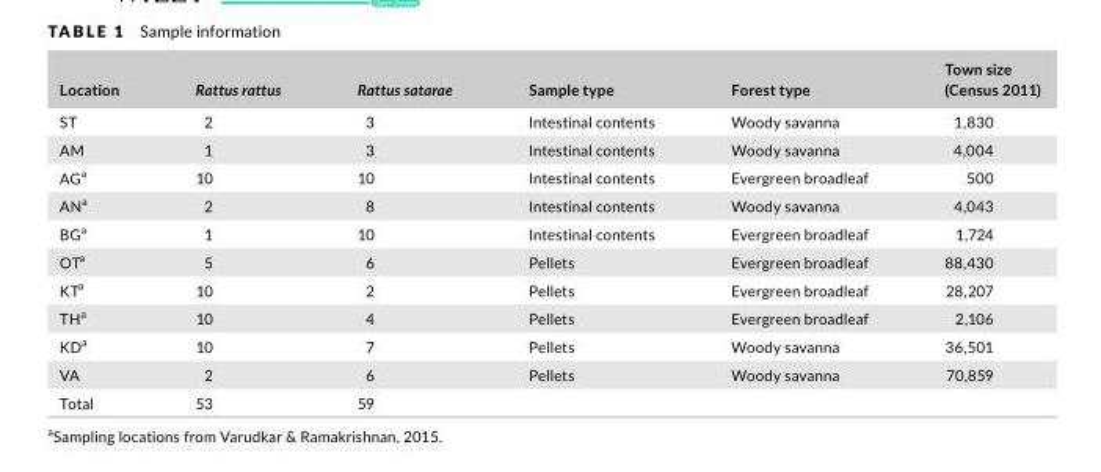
<table><thead><tr><td>Location</td><td>Rattus rattus</td><td>Rattus satarae</td><td>Sample type</td><td>Forest type</td><td>Town size (Census 2011)</td></tr></thead><tbody><tr><td>ST</td><td>2</td><td>3</td><td>Intestinal contents</td><td>Woody savanna</td><td>1,830</td></tr><tr><td>AM</td><td>1</td><td>3</td><td>Intestinal contents</td><td>Woody savanna</td><td>4,004</td></tr><tr><td>AG<sup>a</sup></td><td>10</td><td>10</td><td>Intestinal contents</td><td>Evergreen broadleaf</td><td>500</td></tr><tr><td>AN<sup>a</sup></td><td>2</td><td>8</td><td>Intestinal contents</td><td>Woody savanna</td><td>4,043</td></tr><tr><td>BG<sup>a</sup></td><td>1</td><td>10</td><td>Intestinal contents</td><td>Evergreen broadleaf</td><td>1,724</td></tr><tr><td>OT<sup>a</sup></td><td>5</td><td>6</td><td>Pellets</td><td>Evergreen broadleaf</td><td>88,430</td></tr><tr><td>KT<sup>a</sup></td><td>10</td><td>2</td><td>Pellets</td><td>Evergreen broadleaf</td><td>28,207</td></tr><tr><td>TH<sup>a</sup></td><td>10</td><td>4</td><td>Pellets</td><td>Evergreen broadleaf</td><td>2,106</td></tr><tr><td>KD<sup>a</sup></td><td>10</td><td>7</td><td>Pellets</td><td>Woody savanna</td><td>36,501</td></tr><tr><td>VA</td><td>2</td><td>6</td><td>Pellets</td><td>Woody savanna</td><td>70,859</td></tr><tr><td>Total</td><td>53</td><td>59</td><td></td><td></td><td></td></tr></tbody></table>